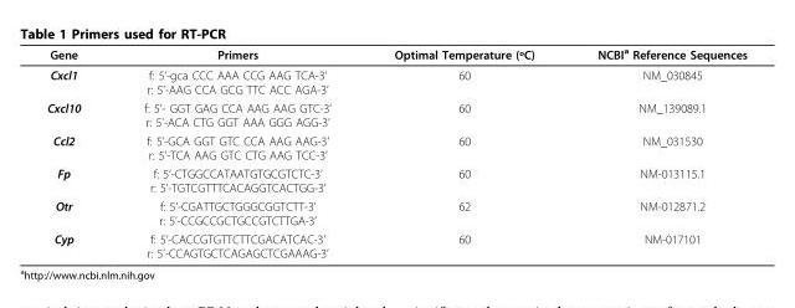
<table><thead><tr><td>Gene</td><td>Primers</td><td>Optimal Temperature (ºC)</td><td>NCBI<sup>a</sup> Reference Sequences</td></tr></thead><tbody><tr><td>Cxcl1</td><td>f: 5’-gca CCC AAA CCG AAG TCA-3’ r: 5’-AAG CCA GCG TTC ACC AGA-3’</td><td>60</td><td>NM_030845</td></tr><tr><td>Cxcl10</td><td>f: 5’- GGT GAG CCA AAG AAG GTC-3’ r: 5’-ACA CTG GGT AAA GGG AGG-3’</td><td>60</td><td>NM_139089.1</td></tr><tr><td>Ccl2</td><td>f: 5’-GCA GGT GTC CCA AAG AAG-3’ r: 5’-TCA AAG GTC CTG AAG TCC-3’</td><td>60</td><td>NM_031530</td></tr><tr><td>Fp</td><td>f: 5’-CTGGCCATAATGTGCGTCTC-3’ r: 5’-TGTCGTTTCACAGGTCACTGG-3’</td><td>60</td><td>NM-013115.1</td></tr><tr><td>Otr</td><td>f: 5’-CGATTGCTGGGCGGTCTT-3’ r: 5’-CCGCCGCTGCCGTCTTGA-3’</td><td>62</td><td>NM-012871.2</td></tr><tr><td>Cyp</td><td>f: 5’-CACCGTGTTCTTCGACATCAC-3’ r: 5’-CCAGTGCTCAGAGCTCGAAAG-3’</td><td>60</td><td>NM-017101</td></tr></tbody></table>